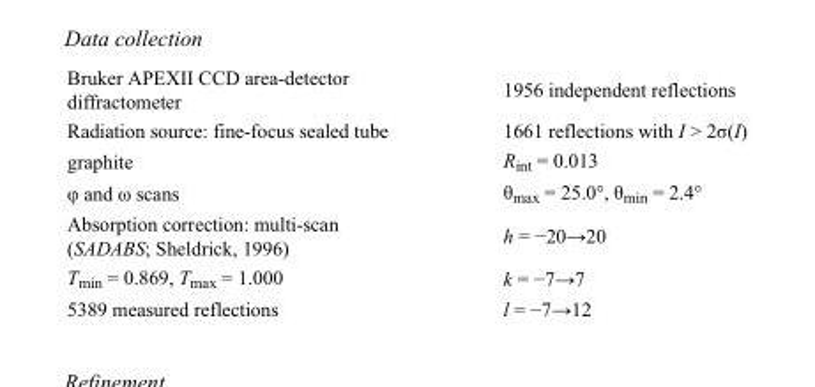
<table><tbody><tr><td>Bruker APEXII CCD area-detector diffractometer</td><td>1956 independent reflections</td></tr><tr><td>Radiation source: fine-focus sealed tube</td><td>1661 reflections with I &gt; 2σ(I)</td></tr><tr><td>graphite</td><td>R<sub>int</sub> = 0.013</td></tr><tr><td>φ and ω scans</td><td>θ<sub>max</sub> = 25.0°, θ<sub>min</sub> = 2.4°</td></tr><tr><td>Absorption correction: multi-scan (SADABS; Sheldrick, 1996)</td><td>h = −20→20</td></tr><tr><td>T<sub>min</sub> = 0.869, T<sub>max</sub> = 1.000</td><td>k = −7→7</td></tr><tr><td>5389 measured reflections</td><td>l = −7→12</td></tr></tbody></table>